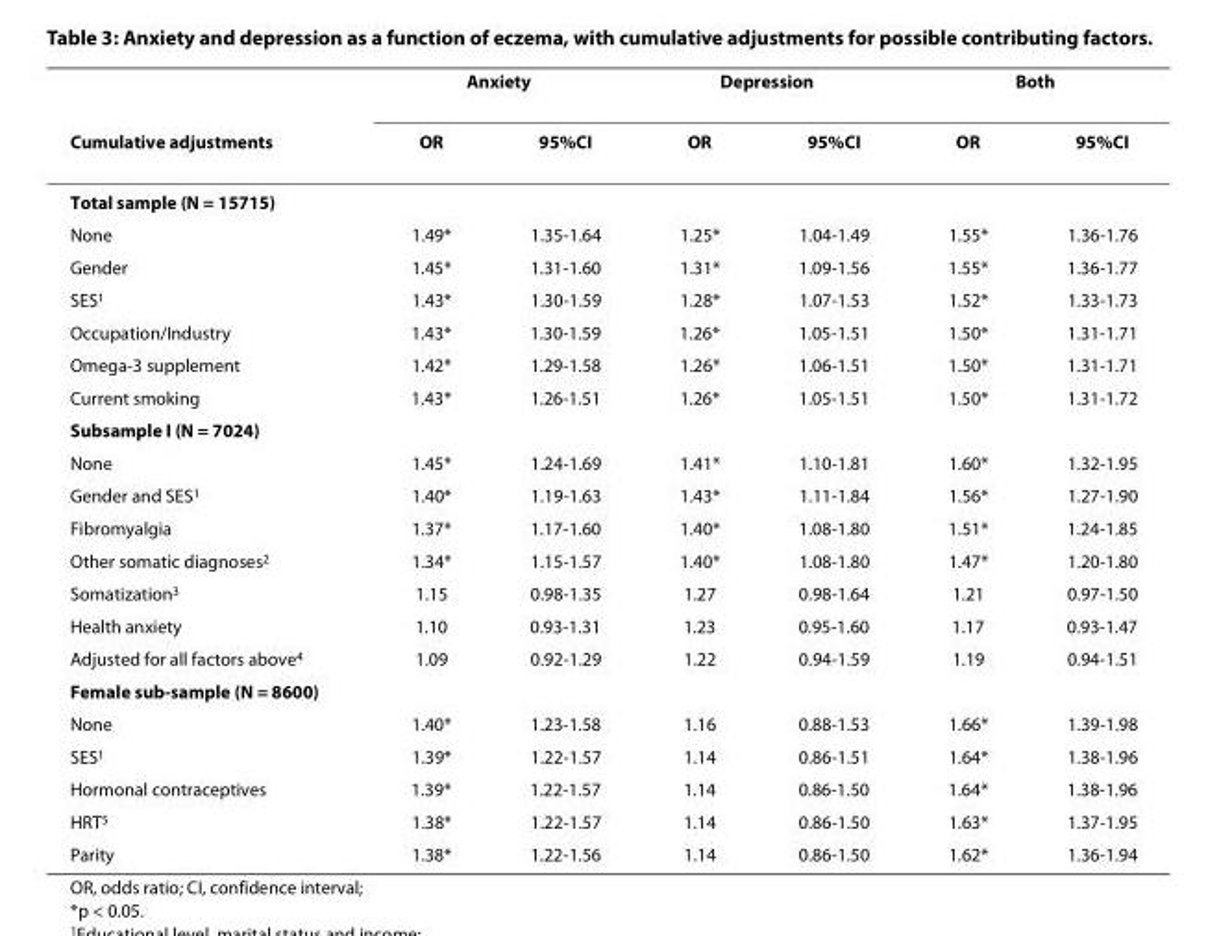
<table><thead><tr><td rowspan="2">Cumulative adjustments</td><td colspan="2">Anxiety</td><td colspan="2">Depression</td><td colspan="2">Both</td></tr><tr><td>OR</td><td>95%CI</td><td>OR</td><td>95%CI</td><td>OR</td><td>95%CI</td></tr></thead><tbody><tr><td colspan="7">Total sample (N = 15715)</td></tr><tr><td>None</td><td>1.49*</td><td>1.35-1.64</td><td>1.25*</td><td>1.04-1.49</td><td>1.55*</td><td>1.36-1.76</td></tr><tr><td>Gender</td><td>1.45*</td><td>1.31-1.60</td><td>1.31*</td><td>1.09-1.56</td><td>1.55*</td><td>1.36-1.77</td></tr><tr><td>SES<sup>1</sup></td><td>1.43*</td><td>1.30-1.59</td><td>1.28*</td><td>1.07-1.53</td><td>1.52*</td><td>1.33-1.73</td></tr><tr><td>Occupation/Industry</td><td>1.43*</td><td>1.30-1.59</td><td>1.26*</td><td>1.05-1.51</td><td>1.50*</td><td>1.31-1.71</td></tr><tr><td>Omega-3 supplement</td><td>1.42*</td><td>1.29-1.58</td><td>1.26*</td><td>1.06-1.51</td><td>1.50*</td><td>1.31-1.71</td></tr><tr><td>Current smoking</td><td>1.43*</td><td>1.26-1.51</td><td>1.26*</td><td>1.05-1.51</td><td>1.50*</td><td>1.31-1.72</td></tr><tr><td colspan="7">Subsample I (N = 7024)</td></tr><tr><td>None</td><td>1.45*</td><td>1.24-1.69</td><td>1.41*</td><td>1.10-1.81</td><td>1.60*</td><td>1.32-1.95</td></tr><tr><td>Gender and SES<sup>1</sup></td><td>1.40*</td><td>1.19-1.63</td><td>1.43*</td><td>1.11-1.84</td><td>1.56*</td><td>1.27-1.90</td></tr><tr><td>Fibromyalgia</td><td>1.37*</td><td>1.17-1.60</td><td>1.40*</td><td>1.08-1.80</td><td>1.51*</td><td>1.24-1.85</td></tr><tr><td>Other somatic diagnoses<sup>2</sup></td><td>1.34*</td><td>1.15-1.57</td><td>1.40*</td><td>1.08-1.80</td><td>1.47*</td><td>1.20-1.80</td></tr><tr><td>Somatization<sup>3</sup></td><td>1.15</td><td>0.98-1.35</td><td>1.27</td><td>0.98-1.64</td><td>1.21</td><td>0.97-1.50</td></tr><tr><td>Health anxiety</td><td>1.10</td><td>0.93-1.31</td><td>1.23</td><td>0.95-1.60</td><td>1.17</td><td>0.93-1.47</td></tr><tr><td>Adjusted for all factors above<sup>4</sup></td><td>1.09</td><td>0.92-1.29</td><td>1.22</td><td>0.94-1.59</td><td>1.19</td><td>0.94-1.51</td></tr><tr><td colspan="7">Female sub-sample (N = 8600)</td></tr><tr><td>None</td><td>1.40*</td><td>1.23-1.58</td><td>1.16</td><td>0.88-1.53</td><td>1.66*</td><td>1.39-1.98</td></tr><tr><td>SES<sup>1</sup></td><td>1.39*</td><td>1.22-1.57</td><td>1.14</td><td>0.86-1.51</td><td>1.64*</td><td>1.38-1.96</td></tr><tr><td>Hormonal contraceptives</td><td>1.39*</td><td>1.22-1.57</td><td>1.14</td><td>0.86-1.50</td><td>1.64*</td><td>1.38-1.96</td></tr><tr><td>HRT<sup>5</sup></td><td>1.38*</td><td>1.22-1.57</td><td>1.14</td><td>0.86-1.50</td><td>1.63*</td><td>1.37-1.95</td></tr><tr><td>Parity</td><td>1.38*</td><td>1.22-1.56</td><td>1.14</td><td>0.86-1.50</td><td>1.62*</td><td>1.36-1.94</td></tr></tbody></table>